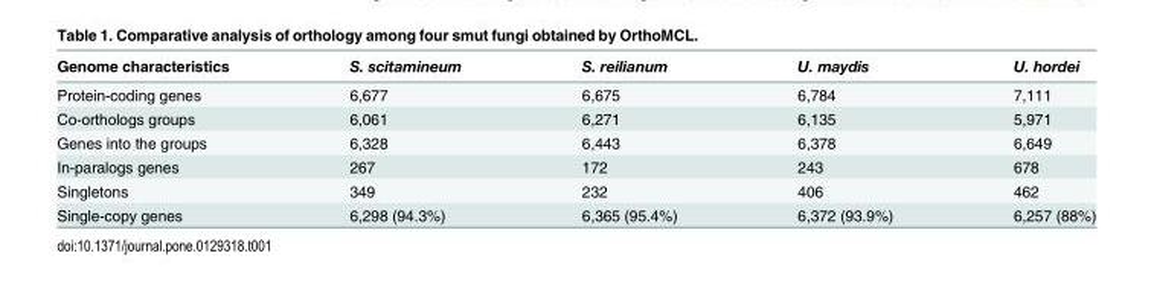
<table><thead><tr><td>Genome characteristics</td><td>S. scitamineum</td><td>S. reilianum</td><td>U. maydis</td><td>U. hordei</td></tr></thead><tbody><tr><td>Protein-coding genes</td><td>6,677</td><td>6,675</td><td>6,784</td><td>7,111</td></tr><tr><td>Co-orthologs groups</td><td>6,061</td><td>6,271</td><td>6,135</td><td>5,971</td></tr><tr><td>Genes into the groups</td><td>6,328</td><td>6,443</td><td>6,378</td><td>6,649</td></tr><tr><td>In-paralogs genes</td><td>267</td><td>172</td><td>243</td><td>678</td></tr><tr><td>Singletons</td><td>349</td><td>232</td><td>406</td><td>462</td></tr><tr><td>Single-copy genes</td><td>6,298 (94.3%)</td><td>6,365 (95.4%)</td><td>6,372 (93.9%)</td><td>6,257 (88%)</td></tr></tbody></table>